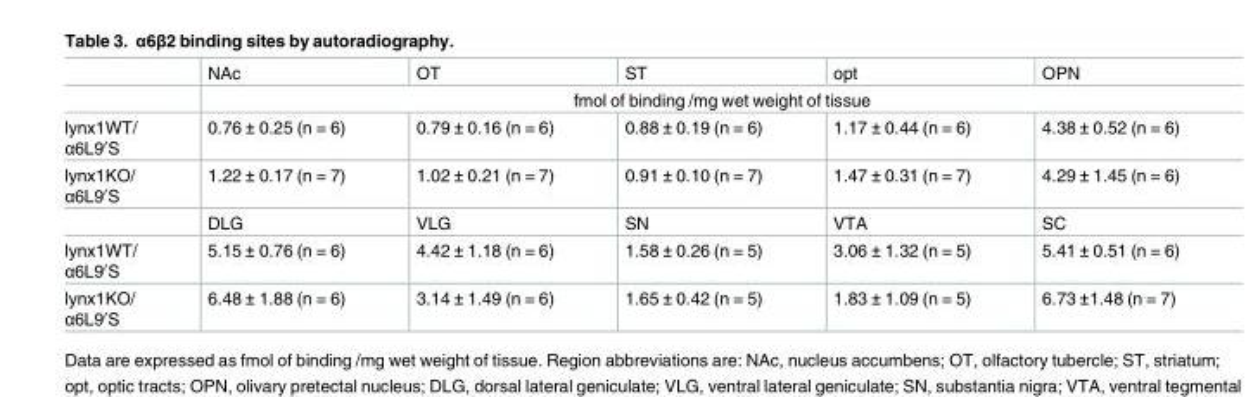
<table><thead><tr><td></td><td>NAc</td><td>OT</td><td>ST</td><td>opt</td><td>OPN</td></tr></thead><tbody><tr><td></td><td colspan="5">fmol of binding /mg wet weight of tissue</td></tr><tr><td>lynx1WT/ α6L9′S</td><td>0.76 ± 0.25 (n = 6)</td><td>0.79 ± 0.16 (n = 6)</td><td>0.88 ± 0.19 (n = 6)</td><td>1.17 ± 0.44 (n = 6)</td><td>4.38 ± 0.52 (n = 6)</td></tr><tr><td rowspan="2">lynx1KO/ α6L9′S</td><td>1.22 ± 0.17 (n = 7)</td><td>1.02 ± 0.21 (n = 7)</td><td>0.91 ± 0.10 (n = 7)</td><td>1.47 ± 0.31 (n = 7)</td><td>4.29 ± 1.45 (n = 6)</td></tr><tr><td>DLG</td><td>VLG</td><td>SN</td><td>VTA</td><td>SC</td></tr><tr><td>lynx1WT/ α6L9′S</td><td>5.15 ± 0.76 (n = 6)</td><td>4.42 ± 1.18 (n = 6)</td><td>1.58 ± 0.26 (n = 5)</td><td>3.06 ± 1.32 (n = 5)</td><td>5.41 ± 0.51 (n = 6)</td></tr><tr><td>lynx1KO/ α6L9′S</td><td>6.48 ± 1.88 (n = 6)</td><td>3.14 ± 1.49 (n = 6)</td><td>1.65 ± 0.42 (n = 5)</td><td>1.83 ± 1.09 (n = 5)</td><td>6.73 ±1.48 (n = 7)</td></tr></tbody></table>